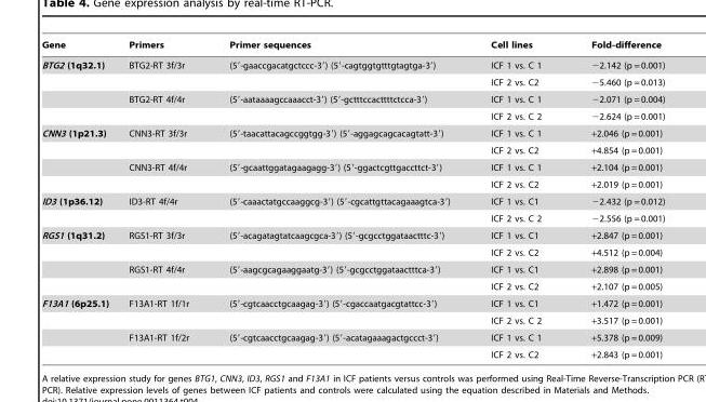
<table><thead><tr><td>Gene</td><td>Primers</td><td>Primer sequences</td><td>Cell lines</td><td>Fold-difference</td></tr></thead><tbody><tr><td rowspan="4">BTG2 (1q32.1)</td><td>BTG2-RT 3f/3r</td><td>(5′-gaaccgacatgctccc-3′) (5′-cagtggtgtttgtagtga-3′)</td><td>ICF 1 vs. C 1</td><td>−2.142 (p = 0.001)</td></tr><tr><td></td><td></td><td>ICF 2 vs. C2</td><td>−5.460 (p = 0.013)</td></tr><tr><td>BTG2-RT 4f/4r</td><td>(5′-aataaaagccaaacct-3′) (5′-gctttccacttttctcca-3′)</td><td>ICF 1 vs. C 1</td><td>−2.071 (p = 0.004)</td></tr><tr><td></td><td></td><td>ICF 2 vs. C 2</td><td>−2.624 (p = 0.001)</td></tr><tr><td rowspan="4">CNN3 (1p21.3)</td><td>CNN3-RT 3f/3r</td><td>(5′-taacattacagccggtgg-3′) (5′-aggagcagcacagtatt-3′)</td><td>ICF 1 vs. C 1</td><td>+2.046 (p = 0.001)</td></tr><tr><td></td><td></td><td>ICF 2 vs. C2</td><td>+4.854 (p = 0.001)</td></tr><tr><td>CNN3-RT 4f/4r</td><td>(5′-gcaattggatagaagagg-3′) (5′-ggactcgttgaccttct-3′)</td><td>ICF 1 vs. C 1</td><td>+2.104 (p = 0.001)</td></tr><tr><td></td><td></td><td>ICF 2 vs. C2</td><td>+2.019 (p = 0.001)</td></tr><tr><td rowspan="2">ID3 (1p36.12)</td><td>ID3-RT 4f/4r</td><td>(5′-caaactatgccaaggcg-3′) (5′-cgcattgttacagaaagtca-3′)</td><td>ICF 1 vs. C1</td><td>−2.432 (p = 0.012)</td></tr><tr><td></td><td></td><td>ICF 2 vs. C 2</td><td>−2.556 (p = 0.001)</td></tr><tr><td rowspan="4">RGS1 (1q31.2)</td><td>RGS1-RT 3f/3r</td><td>(5′-acagatagtatcaagcgca-3′) (5′-gcgcctggataactttc-3′)</td><td>ICF 1 vs. C1</td><td>+2.847 (p = 0.001)</td></tr><tr><td></td><td></td><td>ICF 2 vs. C2</td><td>+4.512 (p = 0.004)</td></tr><tr><td>RGS1-RT 4f/4r</td><td>(5′-aagcgcagaaggaatg-3′) (5′-gcgcctggataactttca-3′)</td><td>ICF 1 vs. C1</td><td>+2.898 (p = 0.001)</td></tr><tr><td></td><td></td><td>ICF 2 vs. C2</td><td>+2.107 (p = 0.005)</td></tr><tr><td rowspan="4">F13A1 (6p25.1)</td><td>F13A1-RT 1f/1r</td><td>(5′-cgtcaacctgcaagag-3′) (5′-cgaccaatgacgtattcc-3′)</td><td>ICF 1 vs. C1</td><td>+1.472 (p = 0.001)</td></tr><tr><td></td><td></td><td>ICF 2 vs. C 2</td><td>+3.517 (p = 0.001)</td></tr><tr><td>F13A1-RT 1f/2r</td><td>(5′-cgtcaacctgcaagag-3′) (5′-acatagaaagactgccct-3′)</td><td>ICF 1 vs. C 1</td><td>+5.378 (p = 0.009)</td></tr><tr><td></td><td></td><td>ICF 2 vs. C2</td><td>+2.843 (p = 0.001)</td></tr></tbody></table>